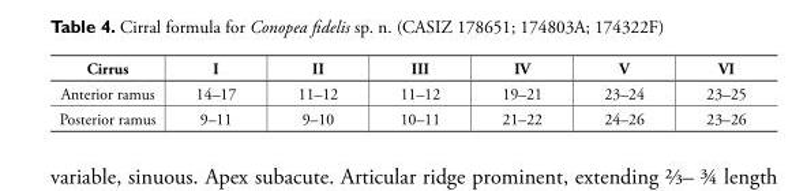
<table><thead><tr><td>Cirrus</td><td>I</td><td>II</td><td>III</td><td>IV</td><td>V</td><td>VI</td></tr></thead><tbody><tr><td>Anterior ramus</td><td>14–17</td><td>11–12</td><td>11–12</td><td>19–21</td><td>23–24</td><td>23–25</td></tr><tr><td>Posterior ramus</td><td>9–11</td><td>9–10</td><td>10–11</td><td>21–22</td><td>24–26</td><td>23–26</td></tr></tbody></table>